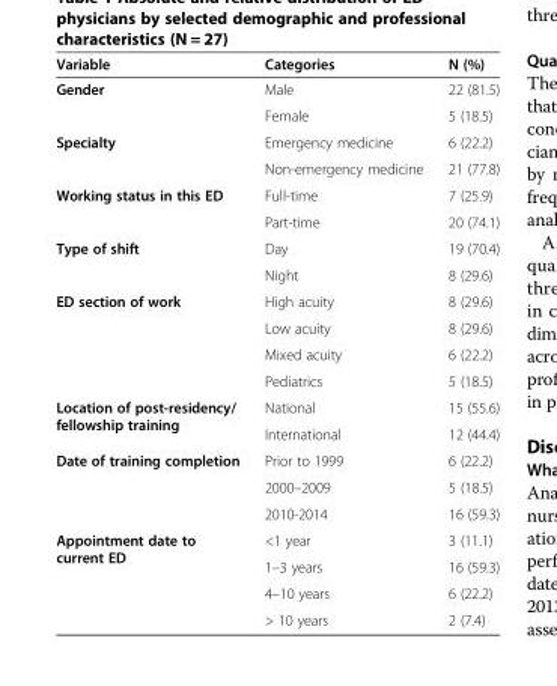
<table><thead><tr><td>Variable</td><td>Categories</td><td>N (%)</td></tr></thead><tbody><tr><td rowspan="2">Gender</td><td>Male</td><td>22 (81.5)</td></tr><tr><td>Female</td><td>5 (18.5)</td></tr><tr><td rowspan="2">Specialty</td><td>Emergency medicine</td><td>6 (22.2)</td></tr><tr><td>Non-emergency medicine</td><td>21 (77.8)</td></tr><tr><td rowspan="2">Working status in this ED</td><td>Full-time</td><td>7 (25.9)</td></tr><tr><td>Part-time</td><td>20 (74.1)</td></tr><tr><td rowspan="2">Type of shift</td><td>Day</td><td>19 (70.4)</td></tr><tr><td>Night</td><td>8 (29.6)</td></tr><tr><td rowspan="4">ED section of work</td><td>High acuity</td><td>8 (29.6)</td></tr><tr><td>Low acuity</td><td>8 (29.6)</td></tr><tr><td>Mixed acuity</td><td>6 (22.2)</td></tr><tr><td>Pediatrics</td><td>5 (18.5)</td></tr><tr><td rowspan="2">Location of post-residency/ fellowship training</td><td>National</td><td>15 (55.6)</td></tr><tr><td>International</td><td>12 (44.4)</td></tr><tr><td rowspan="3">Date of training completion</td><td>Prior to 1999</td><td>6 (22.2)</td></tr><tr><td>2000–2009</td><td>5 (18.5)</td></tr><tr><td>2010-2014</td><td>16 (59.3)</td></tr><tr><td rowspan="4">Appointment date to current ED</td><td>&lt;1 year</td><td>3 (11.1)</td></tr><tr><td>1–3 years</td><td>16 (59.3)</td></tr><tr><td>4–10 years</td><td>6 (22.2)</td></tr><tr><td>&gt; 10 years</td><td>2 (7.4)</td></tr></tbody></table>